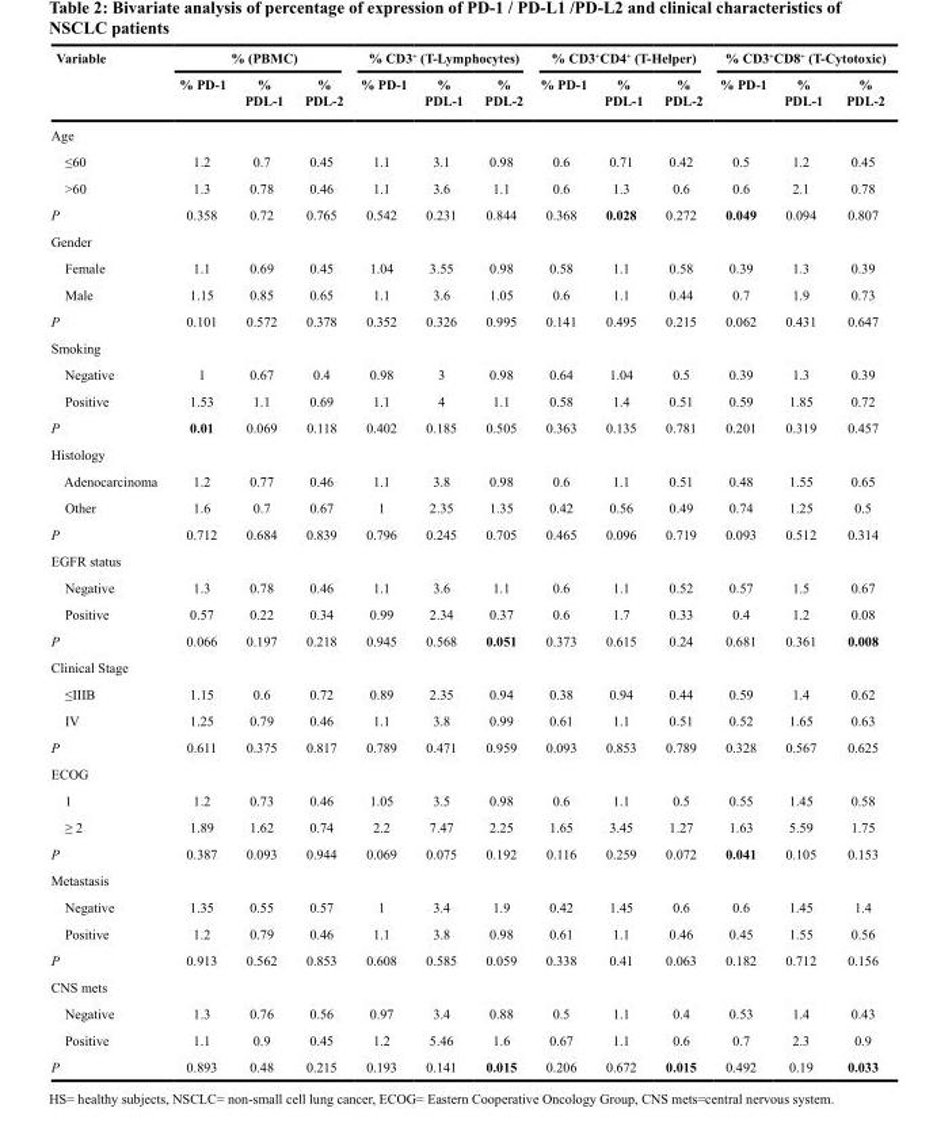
<table><thead><tr><td rowspan="2">Variable</td><td colspan="3">% (PBMC)</td><td colspan="3">% CD3<sup>+</sup> (T-Lymphocytes)</td><td colspan="3">% CD3<sup>+</sup>CD4<sup>+</sup> (T-Helper)</td><td colspan="3">% CD3<sup>+</sup>CD8<sup>+</sup> (T-Cytotoxic)</td></tr><tr><td>% PD-1</td><td>% PDL-1</td><td>% PDL-2</td><td>% PD-1</td><td>% PDL-1</td><td>% PDL-2</td><td>% PD-1</td><td>% PDL-1</td><td>% PDL-2</td><td>% PD-1</td><td>% PDL-1</td><td>% PDL-2</td></tr></thead><tbody><tr><td colspan="13">Age</td></tr><tr><td>≤60</td><td>1.2</td><td>0.7</td><td>0.45</td><td>1.1</td><td>3.1</td><td>0.98</td><td>0.6</td><td>0.71</td><td>0.42</td><td>0.5</td><td>1.2</td><td>0.45</td></tr><tr><td>&gt;60</td><td>1.3</td><td>0.78</td><td>0.46</td><td>1.1</td><td>3.6</td><td>1.1</td><td>0.6</td><td>1.3</td><td>0.6</td><td>0.6</td><td>2.1</td><td>0.78</td></tr><tr><td>P</td><td>0.358</td><td>0.72</td><td>0.765</td><td>0.542</td><td>0.231</td><td>0.844</td><td>0.368</td><td>0.028</td><td>0.272</td><td>0.049</td><td>0.094</td><td>0.807</td></tr><tr><td colspan="13">Gender</td></tr><tr><td>Female</td><td>1.1</td><td>0.69</td><td>0.45</td><td>1.04</td><td>3.55</td><td>0.98</td><td>0.58</td><td>1.1</td><td>0.58</td><td>0.39</td><td>1.3</td><td>0.39</td></tr><tr><td>Male</td><td>1.15</td><td>0.85</td><td>0.65</td><td>1.1</td><td>3.6</td><td>1.05</td><td>0.6</td><td>1.1</td><td>0.44</td><td>0.7</td><td>1.9</td><td>0.73</td></tr><tr><td>P</td><td>0.101</td><td>0.572</td><td>0.378</td><td>0.352</td><td>0.326</td><td>0.995</td><td>0.141</td><td>0.495</td><td>0.215</td><td>0.062</td><td>0.431</td><td>0.647</td></tr><tr><td colspan="13">Smoking</td></tr><tr><td>Negative</td><td>1</td><td>0.67</td><td>0.4</td><td>0.98</td><td>3</td><td>0.98</td><td>0.64</td><td>1.04</td><td>0.5</td><td>0.39</td><td>1.3</td><td>0.39</td></tr><tr><td>Positive</td><td>1.53</td><td>1.1</td><td>0.69</td><td>1.1</td><td>4</td><td>1.1</td><td>0.58</td><td>1.4</td><td>0.51</td><td>0.59</td><td>1.85</td><td>0.72</td></tr><tr><td>P</td><td>0.01</td><td>0.069</td><td>0.118</td><td>0.402</td><td>0.185</td><td>0.505</td><td>0.363</td><td>0.135</td><td>0.781</td><td>0.201</td><td>0.319</td><td>0.457</td></tr><tr><td colspan="13">Histology</td></tr><tr><td>Adenocarcinoma</td><td>1.2</td><td>0.77</td><td>0.46</td><td>1.1</td><td>3.8</td><td>0.98</td><td>0.6</td><td>1.1</td><td>0.51</td><td>0.48</td><td>1.55</td><td>0.65</td></tr><tr><td>Other</td><td>1.6</td><td>0.7</td><td>0.67</td><td>1</td><td>2.35</td><td>1.35</td><td>0.42</td><td>0.56</td><td>0.49</td><td>0.74</td><td>1.25</td><td>0.5</td></tr><tr><td>P</td><td>0.712</td><td>0.684</td><td>0.839</td><td>0.796</td><td>0.245</td><td>0.705</td><td>0.465</td><td>0.096</td><td>0.719</td><td>0.093</td><td>0.512</td><td>0.314</td></tr><tr><td colspan="13">EGFR status</td></tr><tr><td>Negative</td><td>1.3</td><td>0.78</td><td>0.46</td><td>1.1</td><td>3.6</td><td>1.1</td><td>0.6</td><td>1.1</td><td>0.52</td><td>0.57</td><td>1.5</td><td>0.67</td></tr><tr><td>Positive</td><td>0.57</td><td>0.22</td><td>0.34</td><td>0.99</td><td>2.34</td><td>0.37</td><td>0.6</td><td>1.7</td><td>0.33</td><td>0.4</td><td>1.2</td><td>0.08</td></tr><tr><td>P</td><td>0.066</td><td>0.197</td><td>0.218</td><td>0.945</td><td>0.568</td><td>0.051</td><td>0.373</td><td>0.615</td><td>0.24</td><td>0.681</td><td>0.361</td><td>0.008</td></tr><tr><td colspan="13">Clinical Stage</td></tr><tr><td>≤IIIB</td><td>1.15</td><td>0.6</td><td>0.72</td><td>0.89</td><td>2.35</td><td>0.94</td><td>0.38</td><td>0.94</td><td>0.44</td><td>0.59</td><td>1.4</td><td>0.62</td></tr><tr><td>IV</td><td>1.25</td><td>0.79</td><td>0.46</td><td>1.1</td><td>3.8</td><td>0.99</td><td>0.61</td><td>1.1</td><td>0.51</td><td>0.52</td><td>1.65</td><td>0.63</td></tr><tr><td>P</td><td>0.611</td><td>0.375</td><td>0.817</td><td>0.789</td><td>0.471</td><td>0.959</td><td>0.093</td><td>0.853</td><td>0.789</td><td>0.328</td><td>0.567</td><td>0.625</td></tr><tr><td colspan="13">ECOG</td></tr><tr><td>1</td><td>1.2</td><td>0.73</td><td>0.46</td><td>1.05</td><td>3.5</td><td>0.98</td><td>0.6</td><td>1.1</td><td>0.5</td><td>0.55</td><td>1.45</td><td>0.58</td></tr><tr><td>≥ 2</td><td>1.89</td><td>1.62</td><td>0.74</td><td>2.2</td><td>7.47</td><td>2.25</td><td>1.65</td><td>3.45</td><td>1.27</td><td>1.63</td><td>5.59</td><td>1.75</td></tr><tr><td>P</td><td>0.387</td><td>0.093</td><td>0.944</td><td>0.069</td><td>0.075</td><td>0.192</td><td>0.116</td><td>0.259</td><td>0.072</td><td>0.041</td><td>0.105</td><td>0.153</td></tr><tr><td colspan="13">Metastasis</td></tr><tr><td>Negative</td><td>1.35</td><td>0.55</td><td>0.57</td><td>1</td><td>3.4</td><td>1.9</td><td>0.42</td><td>1.45</td><td>0.6</td><td>0.6</td><td>1.45</td><td>1.4</td></tr><tr><td>Positive</td><td>1.2</td><td>0.79</td><td>0.46</td><td>1.1</td><td>3.8</td><td>0.98</td><td>0.61</td><td>1.1</td><td>0.46</td><td>0.45</td><td>1.55</td><td>0.56</td></tr><tr><td>P</td><td>0.913</td><td>0.562</td><td>0.853</td><td>0.608</td><td>0.585</td><td>0.059</td><td>0.338</td><td>0.41</td><td>0.063</td><td>0.182</td><td>0.712</td><td>0.156</td></tr><tr><td colspan="13">CNS mets</td></tr><tr><td>Negative</td><td>1.3</td><td>0.76</td><td>0.56</td><td>0.97</td><td>3.4</td><td>0.88</td><td>0.5</td><td>1.1</td><td>0.4</td><td>0.53</td><td>1.4</td><td>0.43</td></tr><tr><td>Positive</td><td>1.1</td><td>0.9</td><td>0.45</td><td>1.2</td><td>5.46</td><td>1.6</td><td>0.67</td><td>1.1</td><td>0.6</td><td>0.7</td><td>2.3</td><td>0.9</td></tr><tr><td>P</td><td>0.893</td><td>0.48</td><td>0.215</td><td>0.193</td><td>0.141</td><td>0.015</td><td>0.206</td><td>0.672</td><td>0.015</td><td>0.492</td><td>0.19</td><td>0.033</td></tr></tbody></table>